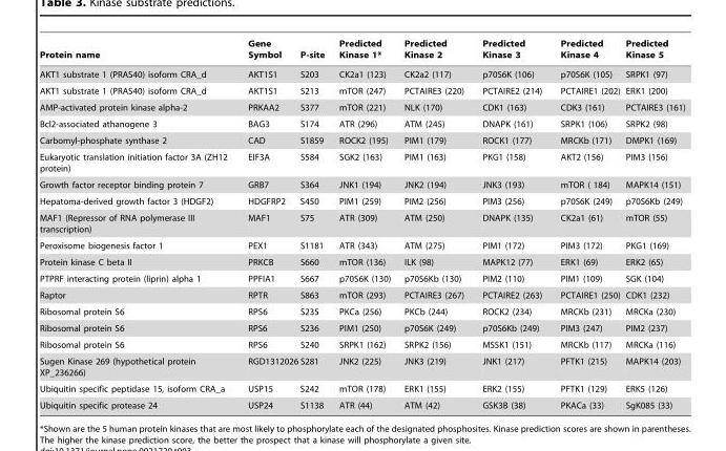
<table><thead><tr><td>Protein name</td><td>Gene Symbol</td><td>P-site</td><td>Predicted Kinase 1*</td><td>Predicted Kinase 2</td><td>Predicted Kinase 3</td><td>Predicted Kinase 4</td><td>Predicted Kinase 5</td></tr></thead><tbody><tr><td>AKT1 substrate 1 (PRAS40) isoform CRA_d</td><td>AKT1S1</td><td>S203</td><td>CK2a1 (123)</td><td>CK2a2 (117)</td><td>p70S6K (106)</td><td>p70S6K (105)</td><td>SRPK1 (97)</td></tr><tr><td>AKT1 substrate 1 (PRAS40) isoform CRA_d</td><td>AKT1S1</td><td>S213</td><td>mTOR (247)</td><td>PCTAIRE3 (220)</td><td>PCTAIRE2 (214)</td><td>PCTAIRE1 (202)</td><td>ERK1 (200)</td></tr><tr><td>AMP-activated protein kinase alpha-2</td><td>PRKAA2</td><td>S377</td><td>mTOR (221)</td><td>NLK (170)</td><td>CDK1 (163)</td><td>CDK3 (161)</td><td>PCTAIRE3 (161)</td></tr><tr><td>Bcl2-associated athanogene 3</td><td>BAG3</td><td>S174</td><td>ATR (296)</td><td>ATM (245)</td><td>DNAPK (161)</td><td>SRPK1 (106)</td><td>SRPK2 (98)</td></tr><tr><td>Carbomyl-phosphate synthase 2</td><td>CAD</td><td>S1859</td><td>ROCK2 (195)</td><td>PIM1 (179)</td><td>ROCK1 (177)</td><td>MRCKb (171)</td><td>DMPK1 (169)</td></tr><tr><td>Eukaryotic translation initiation factor 3A (ZH12 protein)</td><td>EIF3A</td><td>S584</td><td>SGK2 (163)</td><td>PIM1 (163)</td><td>PKG1 (158)</td><td>AKT2 (156)</td><td>PIM3 (156)</td></tr><tr><td>Growth factor receptor binding protein 7</td><td>GRB7</td><td>S364</td><td>JNK1 (194)</td><td>JNK2 (194)</td><td>JNK3 (193)</td><td>mTOR ( 184)</td><td>MAPK14 (151)</td></tr><tr><td>Hepatoma-derived growth factor 3 (HDGF2)</td><td>HDGFRP2</td><td>S450</td><td>PIM1 (259)</td><td>PIM2 (256)</td><td>PIM3 (256)</td><td>p70S6K (249)</td><td>p70S6Kb (249)</td></tr><tr><td>MAF1 (Repressor of RNA polymerase III transcription)</td><td>MAF1</td><td>S75</td><td>ATR (309)</td><td>ATM (250)</td><td>DNAPK (135)</td><td>CK2a1 (61)</td><td>mTOR (55)</td></tr><tr><td>Peroxisome biogenesis factor 1</td><td>PEX1</td><td>S1181</td><td>ATR (343)</td><td>ATM (275)</td><td>PIM1 (172)</td><td>PIM3 (172)</td><td>PKG1 (169)</td></tr><tr><td>Protein kinase C beta II</td><td>PRKCB</td><td>S660</td><td>mTOR (136)</td><td>ILK (98)</td><td>MAPK12 (77)</td><td>ERK1 (69)</td><td>ERK2 (65)</td></tr><tr><td>PTPRF interacting protein (liprin) alpha 1</td><td>PPFIA1</td><td>S667</td><td>p70S6K (130)</td><td>p70S6Kb (130)</td><td>PIM2 (110)</td><td>PIM1 (109)</td><td>SGK (104)</td></tr><tr><td>Raptor</td><td>RPTR</td><td>S863</td><td>mTOR (293)</td><td>PCTAIRE3 (267)</td><td>PCTAIRE2 (263)</td><td>PCTAIRE1 (250)</td><td>CDK1 (232)</td></tr><tr><td>Ribosomal protein S6</td><td>RPS6</td><td>S235</td><td>PKCa (256)</td><td>PKCb (244)</td><td>ROCK2 (234)</td><td>MRCKb (231)</td><td>MRCKa (230)</td></tr><tr><td>Ribosomal protein S6</td><td>RPS6</td><td>S236</td><td>PIM1 (250)</td><td>p70S6K (249)</td><td>p70S6Kb (249)</td><td>PIM3 (247)</td><td>PIM2 (237)</td></tr><tr><td>Ribosomal protein S6</td><td>RPS6</td><td>S240</td><td>SRPK1 (162)</td><td>SRPK2 (156)</td><td>MSSK1 (151)</td><td>MRCKb (117)</td><td>MRCKa (116)</td></tr><tr><td>Sugen Kinase 269 (hypothetical protein XP_236266)</td><td>RGD1312026</td><td>S281</td><td>JNK2 (225)</td><td>JNK3 (219)</td><td>JNK1 (217)</td><td>PFTK1 (215)</td><td>MAPK14 (203)</td></tr><tr><td>Ubiquitin specific peptidase 15, isoform CRA_a</td><td>USP15</td><td>S242</td><td>mTOR (178)</td><td>ERK1 (155)</td><td>ERK2 (155)</td><td>PFTK1 (129)</td><td>ERK5 (126)</td></tr><tr><td>Ubiquitin specific protease 24</td><td>USP24</td><td>S1138</td><td>ATR (44)</td><td>ATM (42)</td><td>GSK3B (38)</td><td>PKACa (33)</td><td>SgK085 (33)</td></tr></tbody></table>